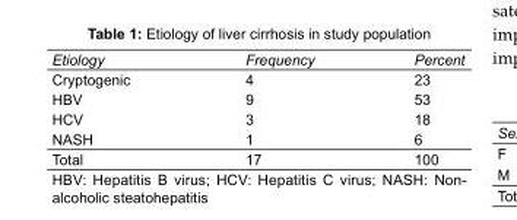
<table><tbody><tr><td>Etiology</td><td>Frequency</td><td>Percent</td></tr><tr><td>Cryptogenic</td><td>4</td><td>23</td></tr><tr><td>HBV</td><td>9</td><td>53</td></tr><tr><td>HCV</td><td>3</td><td>18</td></tr><tr><td>NASH</td><td>1</td><td>6</td></tr><tr><td>Total</td><td>17</td><td>100</td></tr></tbody></table>